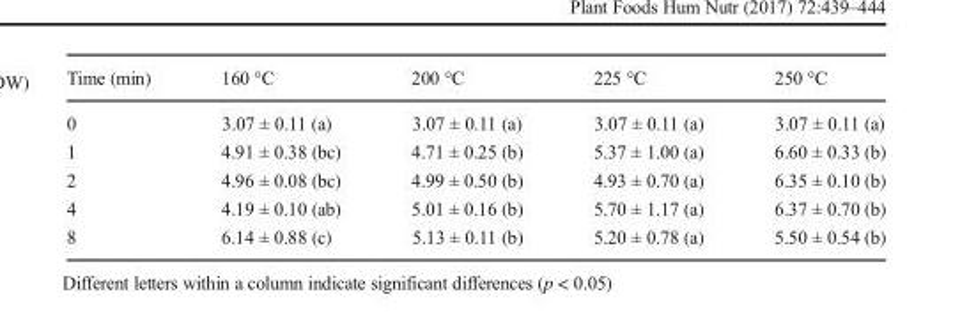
<table><thead><tr><td>Time (min)</td><td>160 °C</td><td>200 °C</td><td>225 °C</td><td>250 °C</td></tr></thead><tbody><tr><td>0</td><td>3.07 ± 0.11 (a)</td><td>3.07 ± 0.11 (a)</td><td>3.07 ± 0.11 (a)</td><td>3.07 ± 0.11 (a)</td></tr><tr><td>1</td><td>4.91 ± 0.38 (bc)</td><td>4.71 ± 0.25 (b)</td><td>5.37 ± 1.00 (a)</td><td>6.60 ± 0.33 (b)</td></tr><tr><td>2</td><td>4.96 ± 0.08 (bc)</td><td>4.99 ± 0.50 (b)</td><td>4.93 ± 0.70 (a)</td><td>6.35 ± 0.10 (b)</td></tr><tr><td>4</td><td>4.19 ± 0.10 (ab)</td><td>5.01 ± 0.16 (b)</td><td>5.70 ± 1.17 (a)</td><td>6.37 ± 0.70 (b)</td></tr><tr><td>8</td><td>6.14 ± 0.88 (c)</td><td>5.13 ± 0.11 (b)</td><td>5.20 ± 0.78 (a)</td><td>5.50 ± 0.54 (b)</td></tr></tbody></table>